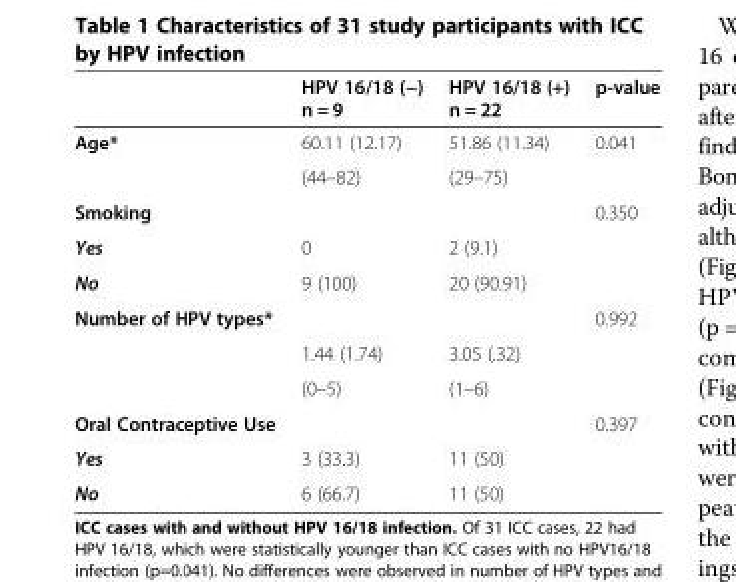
<table><thead><tr><td></td><td>HPV 16/18 (−) n = 9</td><td>HPV 16/18 (+) n = 22</td><td>p-value</td></tr></thead><tbody><tr><td rowspan="2">Age*</td><td>60.11 (12.17)</td><td>51.86 (11.34)</td><td>0.041</td></tr><tr><td>(44–82)</td><td>(29–75)</td><td></td></tr><tr><td>Smoking</td><td></td><td></td><td>0.350</td></tr><tr><td>Yes</td><td>0</td><td>2 (9.1)</td><td></td></tr><tr><td>No</td><td>9 (100)</td><td>20 (90.91)</td><td></td></tr><tr><td rowspan="3">Number of HPV types*</td><td></td><td></td><td>0.992</td></tr><tr><td>1.44 (1.74)</td><td>3.05 (.32)</td><td></td></tr><tr><td>(0–5)</td><td>(1–6)</td><td></td></tr><tr><td>Oral Contraceptive Use</td><td></td><td></td><td>0.397</td></tr><tr><td>Yes</td><td>3 (33.3)</td><td>11 (50)</td><td></td></tr><tr><td>No</td><td>6 (66.7)</td><td>11 (50)</td><td></td></tr></tbody></table>